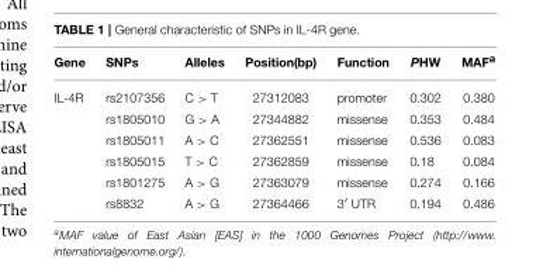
<table><thead><tr><td>Gene</td><td>SNPs</td><td>Alleles</td><td>Position(bp)</td><td>Function</td><td>PHW</td><td>MAF<sup>a</sup></td></tr></thead><tbody><tr><td rowspan="6">IL-4R</td><td>rs2107356</td><td>C &gt; T</td><td>27312083</td><td>promoter</td><td>0.302</td><td>0.380</td></tr><tr><td>rs1805010</td><td>G &gt; A</td><td>27344882</td><td>missense</td><td>0.353</td><td>0.484</td></tr><tr><td>rs1805011</td><td>A &gt; C</td><td>27362551</td><td>missense</td><td>0.536</td><td>0.083</td></tr><tr><td>rs1805015</td><td>T &gt; C</td><td>27362859</td><td>missense</td><td>0.18</td><td>0.084</td></tr><tr><td>rs1801275</td><td>A &gt; G</td><td>27363079</td><td>missense</td><td>0.274</td><td>0.166</td></tr><tr><td>rs8832</td><td>A &gt; G</td><td>27364466</td><td>3′ UTR</td><td>0.194</td><td>0.486</td></tr></tbody></table>